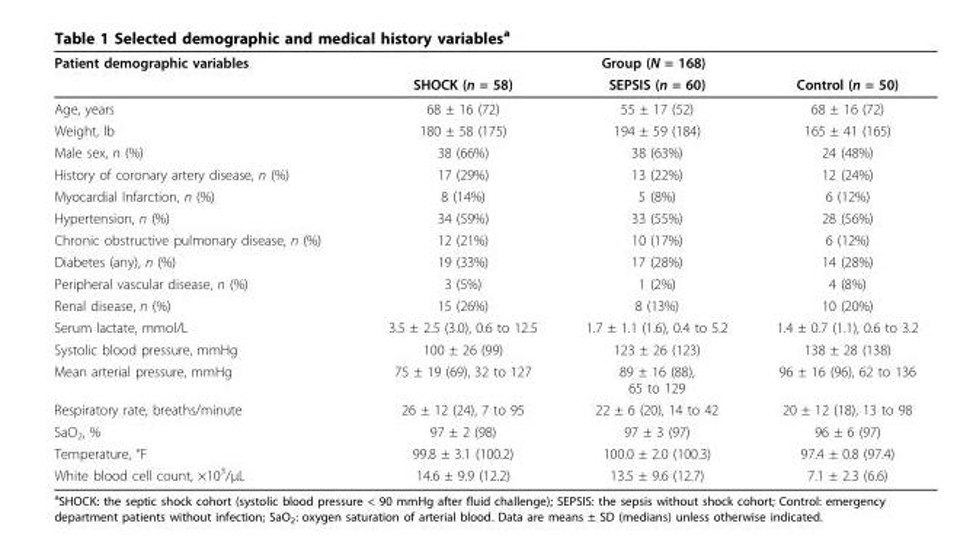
<table><thead><tr><td rowspan="2">Patient demographic variables</td><td colspan="3">Group (N = 168)</td></tr><tr><td>SHOCK (n = 58)</td><td>SEPSIS (n = 60)</td><td>Control (n = 50)</td></tr></thead><tbody><tr><td>Age, years</td><td>68 ± 16 (72)</td><td>55 ± 17 (52)</td><td>68 ± 16 (72)</td></tr><tr><td>Weight, lb</td><td>180 ± 58 (175)</td><td>194 ± 59 (184)</td><td>165 ± 41 (165)</td></tr><tr><td>Male sex, n (%)</td><td>38 (66%)</td><td>38 (63%)</td><td>24 (48%)</td></tr><tr><td>History of coronary artery disease, n (%)</td><td>17 (29%)</td><td>13 (22%)</td><td>12 (24%)</td></tr><tr><td>Myocardial Infarction, n (%)</td><td>8 (14%)</td><td>5 (8%)</td><td>6 (12%)</td></tr><tr><td>Hypertension, n (%)</td><td>34 (59%)</td><td>33 (55%)</td><td>28 (56%)</td></tr><tr><td>Chronic obstructive pulmonary disease, n (%)</td><td>12 (21%)</td><td>10 (17%)</td><td>6 (12%)</td></tr><tr><td>Diabetes (any), n (%)</td><td>19 (33%)</td><td>17 (28%)</td><td>14 (28%)</td></tr><tr><td>Peripheral vascular disease, n (%)</td><td>3 (5%)</td><td>1 (2%)</td><td>4 (8%)</td></tr><tr><td>Renal disease, n (%)</td><td>15 (26%)</td><td>8 (13%)</td><td>10 (20%)</td></tr><tr><td>Serum lactate, mmol/L</td><td>3.5 ± 2.5 (3.0), 0.6 to 12.5</td><td>1.7 ± 1.1 (1.6), 0.4 to 5.2</td><td>1.4 ± 0.7 (1.1), 0.6 to 3.2</td></tr><tr><td>Systolic blood pressure, mmHg</td><td>100 ± 26 (99)</td><td>123 ± 26 (123)</td><td>138 ± 28 (138)</td></tr><tr><td>Mean arterial pressure, mmHg</td><td>75 ± 19 (69), 32 to 127</td><td>89 ± 16 (88), 65 to 129</td><td>96 ± 16 (96), 62 to 136</td></tr><tr><td>Respiratory rate, breaths/minute</td><td>26 ± 12 (24), 7 to 95</td><td>22 ± 6 (20), 14 to 42</td><td>20 ± 12 (18), 13 to 98</td></tr><tr><td>SaO<sub>2</sub>, %</td><td>97 ± 2 (98)</td><td>97 ± 3 (97)</td><td>96 ± 6 (97)</td></tr><tr><td>Temperature, °F</td><td>99.8 ± 3.1 (100.2)</td><td>100.0 ± 2.0 (100.3)</td><td>97.4 ± 0.8 (97.4)</td></tr><tr><td>White blood cell count, ×10<sup>3</sup>/μL</td><td>14.6 ± 9.9 (12.2)</td><td>13.5 ± 9.6 (12.7)</td><td>7.1 ± 2.3 (6.6)</td></tr></tbody></table>